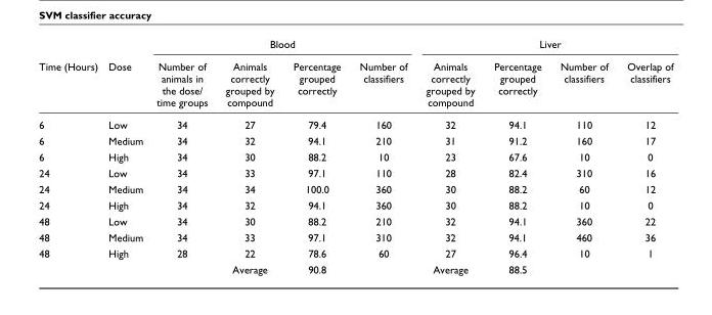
<table><thead><tr><td rowspan="2">Time (Hours)</td><td rowspan="2">Dose</td><td colspan="4">Blood</td><td colspan="4">Liver</td></tr><tr><td>Number of animals in the dose/ time groups</td><td>Animals correctly grouped by compound</td><td>Percentage grouped correctly</td><td>Number of classifiers</td><td>Animals correctly grouped by compound</td><td>Percentage grouped correctly</td><td>Number of classifiers</td><td>Overlap of classifiers</td></tr></thead><tbody><tr><td>6</td><td>Low</td><td>34</td><td>27</td><td>79.4</td><td>160</td><td>32</td><td>94.1</td><td>110</td><td>12</td></tr><tr><td>6</td><td>Medium</td><td>34</td><td>32</td><td>94.1</td><td>210</td><td>31</td><td>91.2</td><td>160</td><td>17</td></tr><tr><td>6</td><td>High</td><td>34</td><td>30</td><td>88.2</td><td>10</td><td>23</td><td>67.6</td><td>10</td><td>0</td></tr><tr><td>24</td><td>Low</td><td>34</td><td>33</td><td>97.1</td><td>110</td><td>28</td><td>82.4</td><td>310</td><td>16</td></tr><tr><td>24</td><td>Medium</td><td>34</td><td>34</td><td>100.0</td><td>360</td><td>30</td><td>88.2</td><td>60</td><td>12</td></tr><tr><td>24</td><td>High</td><td>34</td><td>32</td><td>94.1</td><td>360</td><td>30</td><td>88.2</td><td>10</td><td>0</td></tr><tr><td>48</td><td>Low</td><td>34</td><td>30</td><td>88.2</td><td>210</td><td>32</td><td>94.1</td><td>360</td><td>22</td></tr><tr><td>48</td><td>Medium</td><td>34</td><td>33</td><td>97.1</td><td>310</td><td>32</td><td>94.1</td><td>460</td><td>36</td></tr><tr><td rowspan="2">48</td><td>High</td><td>28</td><td>22</td><td>78.6</td><td>60</td><td>27</td><td>96.4</td><td>10</td><td>1</td></tr><tr><td></td><td></td><td>Average</td><td>90.8</td><td></td><td>Average</td><td>88.5</td><td></td><td></td></tr></tbody></table>